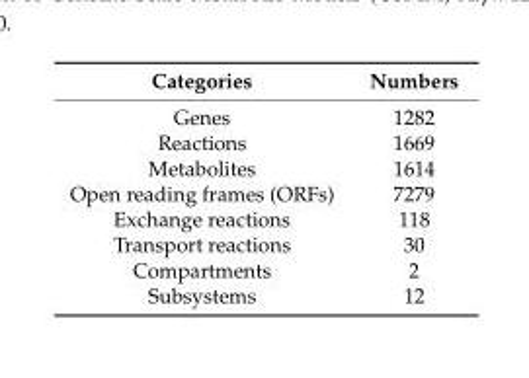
<table><thead><tr><td>Categories</td><td>Numbers</td></tr></thead><tbody><tr><td>Genes</td><td>1282</td></tr><tr><td>Reactions</td><td>1669</td></tr><tr><td>Metabolites</td><td>1614</td></tr><tr><td>Open reading frames (ORFs)</td><td>7279</td></tr><tr><td>Exchange reactions</td><td>118</td></tr><tr><td>Transport reactions</td><td>30</td></tr><tr><td>Compartments</td><td>2</td></tr><tr><td>Subsystems</td><td>12</td></tr></tbody></table>